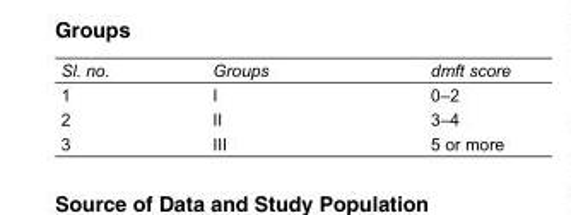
<table><tbody><tr><td>Sl. no.</td><td>Groups</td><td>dmft score</td></tr><tr><td>1</td><td>I</td><td>0–2</td></tr><tr><td>2</td><td>II</td><td>3–4</td></tr><tr><td>3</td><td>III</td><td>5 or more</td></tr></tbody></table>